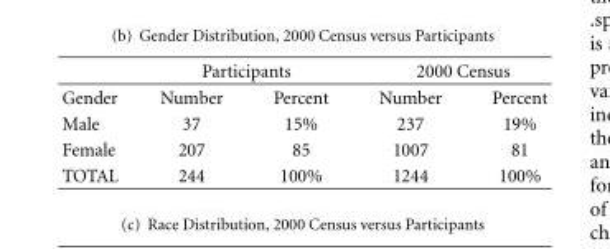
<table><thead><tr><td rowspan="2">Gender</td><td colspan="2">Participants</td><td colspan="2">2000 Census</td></tr><tr><td>Number</td><td>Percent</td><td>Number</td><td>Percent</td></tr></thead><tbody><tr><td>Male</td><td>37</td><td>15%</td><td>237</td><td>19%</td></tr><tr><td>Female</td><td>207</td><td>85</td><td>1007</td><td>81</td></tr><tr><td>TOTAL</td><td>244</td><td>100%</td><td>1244</td><td>100%</td></tr></tbody></table>